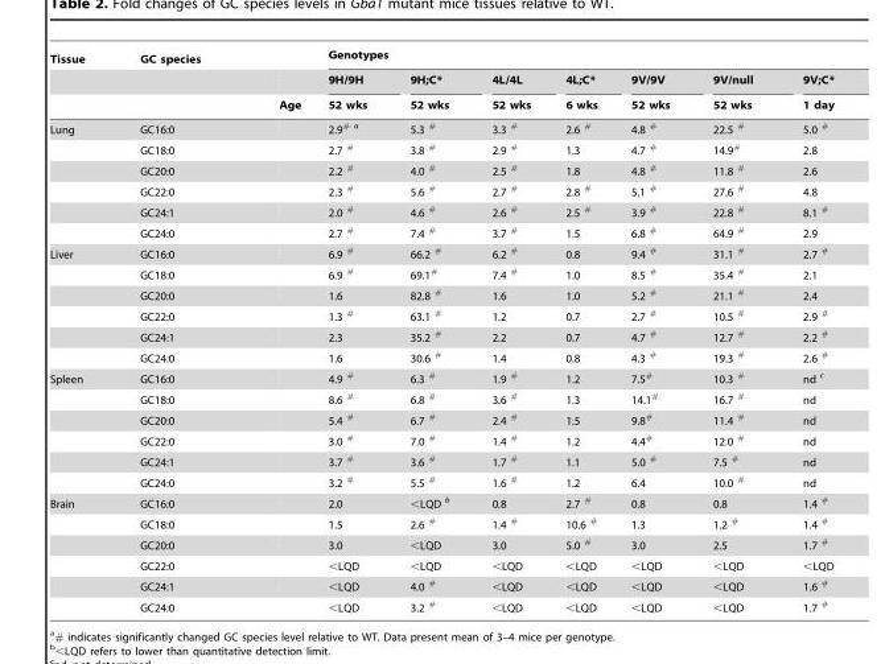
<table><thead><tr><td rowspan="3">Tissue</td><td rowspan="3">GC species</td><td rowspan="3">Age</td><td colspan="7">Genotypes</td></tr><tr><td rowspan="2">9H/9H 52 wks</td><td rowspan="2">9H;C* 52 wks</td><td rowspan="2">4L/4L 52 wks</td><td rowspan="2">4L;C* 6 wks</td><td rowspan="2">9V/9V 52 wks</td><td rowspan="2">9V/null 52 wks</td><td rowspan="2">9V;C* 1 day</td></tr><tr></tr></thead><tbody><tr><td rowspan="6">Lung</td><td>GC16:0</td><td></td><td>2.9<sup>#</sup> a</td><td>5.3 <sup>#</sup></td><td>3.3 <sup>#</sup></td><td>2.6 <sup>#</sup></td><td>4.8 <sup>#</sup></td><td>22.5 <sup>#</sup></td><td>5.0 <sup>#</sup></td></tr><tr><td>GC18:0</td><td></td><td>2.7 <sup>#</sup></td><td>3.8 <sup>#</sup></td><td>2.9 <sup>#</sup></td><td>1.3</td><td>4.7 <sup>#</sup></td><td>14.9<sup>#</sup></td><td>2.8</td></tr><tr><td>GC20:0</td><td></td><td>2.2 <sup>#</sup></td><td>4.0 <sup>#</sup></td><td>2.5 <sup>#</sup></td><td>1.8</td><td>4.8 <sup>#</sup></td><td>11.8 <sup>#</sup></td><td>2.6</td></tr><tr><td>GC22:0</td><td></td><td>2.3 <sup>#</sup></td><td>5.6 <sup>#</sup></td><td>2.7 <sup>#</sup></td><td>2.8 <sup>#</sup></td><td>5.1 <sup>#</sup></td><td>27.6 <sup>#</sup></td><td>4.8</td></tr><tr><td>GC24:1</td><td></td><td>2.0 <sup>#</sup></td><td>4.6 <sup>#</sup></td><td>2.6 <sup>#</sup></td><td>2.5 <sup>#</sup></td><td>3.9 <sup>#</sup></td><td>22.8 <sup>#</sup></td><td>8.1 <sup>#</sup></td></tr><tr><td>GC24:0</td><td></td><td>2.7 <sup>#</sup></td><td>7.4 <sup>#</sup></td><td>3.7 <sup>#</sup></td><td>1.5</td><td>6.8 <sup>#</sup></td><td>64.9 <sup>#</sup></td><td>2.9</td></tr><tr><td rowspan="6">Liver</td><td>GC16:0</td><td></td><td>6.9 <sup>#</sup></td><td>66.2 <sup>#</sup></td><td>6.2 <sup>#</sup></td><td>0.8</td><td>9.4 <sup>#</sup></td><td>31.1 <sup>#</sup></td><td>2.7 <sup>#</sup></td></tr><tr><td>GC18:0</td><td></td><td>6.9 <sup>#</sup></td><td>69.1<sup>#</sup></td><td>7.4 <sup>#</sup></td><td>1.0</td><td>8.5 <sup>#</sup></td><td>35.4 <sup>#</sup></td><td>2.1</td></tr><tr><td>GC20:0</td><td></td><td>1.6</td><td>82.8 <sup>#</sup></td><td>1.6</td><td>1.0</td><td>5.2 <sup>#</sup></td><td>21.1 <sup>#</sup></td><td>2.4</td></tr><tr><td>GC22:0</td><td></td><td>1.3 <sup>#</sup></td><td>63.1 <sup>#</sup></td><td>1.2</td><td>0.7</td><td>2.7 <sup>#</sup></td><td>10.5 <sup>#</sup></td><td>2.9 <sup>#</sup></td></tr><tr><td>GC24:1</td><td></td><td>2.3</td><td>35.2 <sup>#</sup></td><td>2.2</td><td>0.7</td><td>4.7 <sup>#</sup></td><td>12.7 <sup>#</sup></td><td>2.2 <sup>#</sup></td></tr><tr><td>GC24:0</td><td></td><td>1.6</td><td>30.6 <sup>#</sup></td><td>1.4</td><td>0.8</td><td>4.3 <sup>#</sup></td><td>19.3 <sup>#</sup></td><td>2.6 <sup>#</sup></td></tr><tr><td rowspan="6">Spleen</td><td>GC16:0</td><td></td><td>4.9 <sup>#</sup></td><td>6.3 <sup>#</sup></td><td>1.9 <sup>#</sup></td><td>1.2</td><td>7.5<sup>#</sup></td><td>10.3 <sup>#</sup></td><td>nd c</td></tr><tr><td>GC18:0</td><td></td><td>8.6 <sup>#</sup></td><td>6.8 <sup>#</sup></td><td>3.6 <sup>#</sup></td><td>1.3</td><td>14.1<sup>#</sup></td><td>16.7 <sup>#</sup></td><td>nd</td></tr><tr><td>GC20:0</td><td></td><td>5.4 <sup>#</sup></td><td>6.7 <sup>#</sup></td><td>2.4 <sup>#</sup></td><td>1.5</td><td>9.8<sup>#</sup></td><td>11.4 <sup>#</sup></td><td>nd</td></tr><tr><td>GC22:0</td><td></td><td>3.0 <sup>#</sup></td><td>7.0 <sup>#</sup></td><td>1.4 <sup>#</sup></td><td>1.2</td><td>4.4<sup>#</sup></td><td>12.0 <sup>#</sup></td><td>nd</td></tr><tr><td>GC24:1</td><td></td><td>3.7 <sup>#</sup></td><td>3.6 <sup>#</sup></td><td>1.7 <sup>#</sup></td><td>1.1</td><td>5.0 <sup>#</sup></td><td>7.5 <sup>#</sup></td><td>nd</td></tr><tr><td>GC24:0</td><td></td><td>3.2 <sup>#</sup></td><td>5.5 <sup>#</sup></td><td>1.6 <sup>#</sup></td><td>1.2</td><td>6.4</td><td>10.0 <sup>#</sup></td><td>nd</td></tr><tr><td rowspan="6">Brain</td><td>GC16:0</td><td></td><td>2.0</td><td>&lt;LQD b</td><td>0.8</td><td>2.7 <sup>#</sup></td><td>0.8</td><td>0.8</td><td>1.4 <sup>#</sup></td></tr><tr><td>GC18:0</td><td></td><td>1.5</td><td>2.6 <sup>#</sup></td><td>1.4 <sup>#</sup></td><td>10.6 <sup>#</sup></td><td>1.3</td><td>1.2 <sup>#</sup></td><td>1.4 <sup>#</sup></td></tr><tr><td>GC20:0</td><td></td><td>3.0</td><td>&lt;LQD</td><td>3.0</td><td>5.0 <sup>#</sup></td><td>3.0</td><td>2.5</td><td>1.7 <sup>#</sup></td></tr><tr><td>GC22:0</td><td></td><td>&lt;LQD</td><td>&lt;LQD</td><td>&lt;LQD</td><td>&lt;LQD</td><td>&lt;LQD</td><td>&lt;LQD</td><td>&lt;LQD</td></tr><tr><td>GC24:1</td><td></td><td>&lt;LQD</td><td>4.0 <sup>#</sup></td><td>&lt;LQD</td><td>&lt;LQD</td><td>&lt;LQD</td><td>&lt;LQD</td><td>1.6 <sup>#</sup></td></tr><tr><td>GC24:0</td><td></td><td>&lt;LQD</td><td>3.2 <sup>#</sup></td><td>&lt;LQD</td><td>&lt;LQD</td><td>&lt;LQD</td><td>&lt;LQD</td><td>1.7 <sup>#</sup></td></tr></tbody></table>